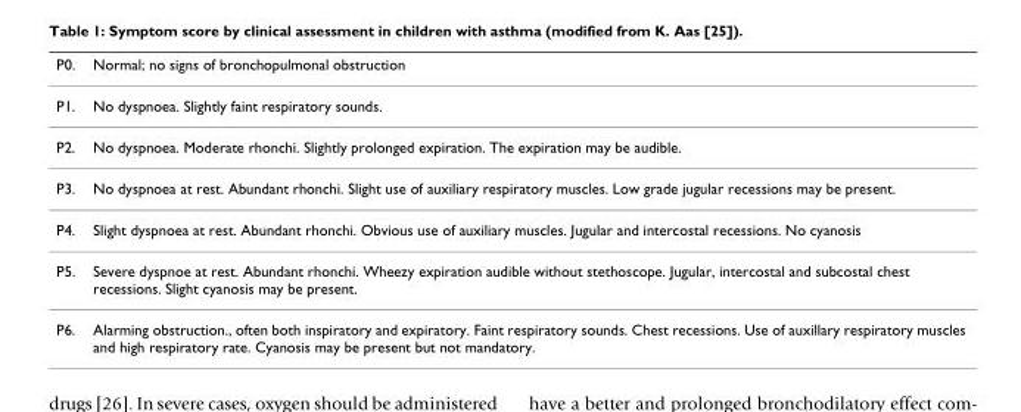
<table><thead><tr><td>P0.</td><td>Normal; no signs of bronchopulmonal obstruction</td></tr></thead><tbody><tr><td>P1.</td><td>No dyspnoea. Slightly faint respiratory sounds.</td></tr><tr><td>P2.</td><td>No dyspnoea. Moderate rhonchi. Slightly prolonged expiration. The expiration may be audible.</td></tr><tr><td>P3.</td><td>No dyspnoea at rest. Abundant rhonchi. Slight use of auxiliary respiratory muscles. Low grade jugular recessions may be present.</td></tr><tr><td>P4.</td><td>Slight dyspnoea at rest. Abundant rhonchi. Obvious use of auxiliary muscles. Jugular and intercostal recessions. No cyanosis</td></tr><tr><td>P5.</td><td>Severe dyspnoe at rest. Abundant rhonchi. Wheezy expiration audible without stethoscope. Jugular, intercostal and subcostal chest recessions. Slight cyanosis may be present.</td></tr><tr><td>P6.</td><td>Alarming obstruction., often both inspiratory and expiratory. Faint respiratory sounds. Chest recessions. Use of auxillary respiratory muscles and high respiratory rate. Cyanosis may be present but not mandatory.</td></tr></tbody></table>